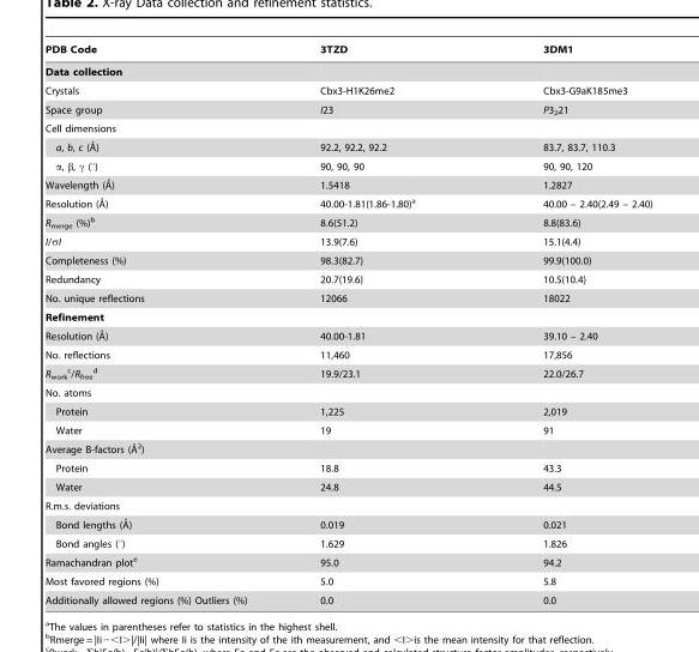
<table><thead><tr><td>PDB Code</td><td>3TZD</td><td>3DM1</td></tr></thead><tbody><tr><td colspan="3">Data collection</td></tr><tr><td>Crystals</td><td>Cbx3-H1K26me2</td><td>Cbx3-G9aK185me3</td></tr><tr><td>Space group</td><td>I23</td><td>P3<sub>2</sub>21</td></tr><tr><td colspan="3">Cell dimensions</td></tr><tr><td>a, b, c (A˚)</td><td>92.2, 92.2, 92.2</td><td>83.7, 83.7, 110.3</td></tr><tr><td>α, β, γ (°)</td><td>90, 90, 90</td><td>90, 90, 120</td></tr><tr><td>Wavelength (A˚)</td><td>1.5418</td><td>1.2827</td></tr><tr><td>Resolution (A˚)</td><td>40.00-1.81(1.86-1.80)<sup>a</sup></td><td>40.00 – 2.40(2.49 – 2.40)</td></tr><tr><td>R<sub>merge</sub> (%)<sup>b</sup></td><td>8.6(51.2)</td><td>8.8(83.6)</td></tr><tr><td>I/σI</td><td>13.9(7.6)</td><td>15.1(4.4)</td></tr><tr><td>Completeness (%)</td><td>98.3(82.7)</td><td>99.9(100.0)</td></tr><tr><td>Redundancy</td><td>20.7(19.6)</td><td>10.5(10.4)</td></tr><tr><td>No. unique reflections</td><td>12066</td><td>18022</td></tr><tr><td colspan="3">Refinement</td></tr><tr><td>Resolution (A˚)</td><td>40.00-1.81</td><td>39.10 – 2.40</td></tr><tr><td>No. reflections</td><td>11,460</td><td>17,856</td></tr><tr><td>R<sub>work</sub> c/R<sub>free</sub> d</td><td>19.9/23.1</td><td>22.0/26.7</td></tr><tr><td colspan="3">No. atoms</td></tr><tr><td>Protein</td><td>1,225</td><td>2,019</td></tr><tr><td>Water</td><td>19</td><td>91</td></tr><tr><td colspan="3">Average B-factors (A˚ 2)</td></tr><tr><td>Protein</td><td>18.8</td><td>43.3</td></tr><tr><td>Water</td><td>24.8</td><td>44.5</td></tr><tr><td colspan="3">R.m.s. deviations</td></tr><tr><td>Bond lengths (A˚)</td><td>0.019</td><td>0.021</td></tr><tr><td>Bond angles (°)</td><td>1.629</td><td>1.826</td></tr><tr><td>Ramachandran plot<sup>e</sup></td><td>95.0</td><td>94.2</td></tr><tr><td>Most favored regions (%)</td><td>5.0</td><td>5.8</td></tr><tr><td>Additionally allowed regions (%) Outliers (%)</td><td>0.0</td><td>0.0</td></tr></tbody></table>